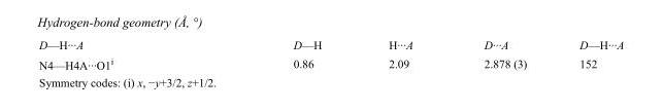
<table><tbody><tr><td>D—H···A</td><td>D—H</td><td>H···A</td><td>D···A</td><td>D—H···A</td></tr><tr><td>N4—H4A···O1<sup>i</sup></td><td>0.86</td><td>2.09</td><td>2.878 (3)</td><td>152</td></tr></tbody></table>